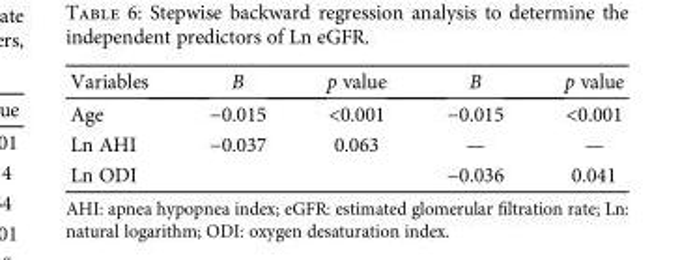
<table><thead><tr><td>Variables</td><td>B</td><td>p value</td><td>B</td><td>p value</td></tr></thead><tbody><tr><td>Age</td><td>−0.015</td><td>&lt;0.001</td><td>−0.015</td><td>&lt;0.001</td></tr><tr><td>Ln AHI</td><td>−0.037</td><td>0.063</td><td>—</td><td>—</td></tr><tr><td>Ln ODI</td><td></td><td></td><td>−0.036</td><td>0.041</td></tr></tbody></table>